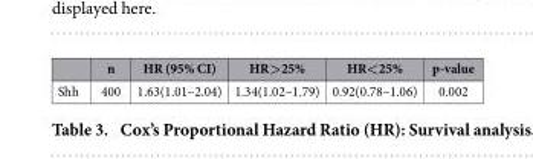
<table><thead><tr><td></td><td>n</td><td>HR (95% CI)</td><td>HR&gt;25%</td><td>HR&lt;25%</td><td>p-value</td></tr></thead><tbody><tr><td>Shh</td><td>400</td><td>1.63(1.01–2.04)</td><td>1.34(1.02–1.79)</td><td>0.92(0.78–1.06)</td><td>0.002</td></tr></tbody></table>